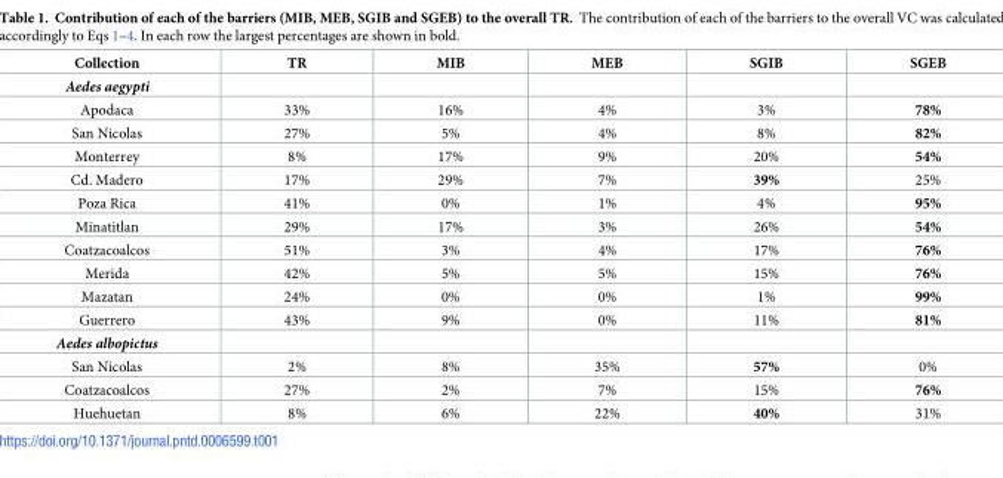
<table><thead><tr><td>Collection</td><td>TR</td><td>MIB</td><td>MEB</td><td>SGIB</td><td>SGEB</td></tr></thead><tbody><tr><td colspan="6">Aedes aegypti</td></tr><tr><td>Apodaca</td><td>33%</td><td>16%</td><td>4%</td><td>3%</td><td>78%</td></tr><tr><td>San Nicolas</td><td>27%</td><td>5%</td><td>4%</td><td>8%</td><td>82%</td></tr><tr><td>Monterrey</td><td>8%</td><td>17%</td><td>9%</td><td>20%</td><td>54%</td></tr><tr><td>Cd. Madero</td><td>17%</td><td>29%</td><td>7%</td><td>39%</td><td>25%</td></tr><tr><td>Poza Rica</td><td>41%</td><td>0%</td><td>1%</td><td>4%</td><td>95%</td></tr><tr><td>Minatitlan</td><td>29%</td><td>17%</td><td>3%</td><td>26%</td><td>54%</td></tr><tr><td>Coatzacoalcos</td><td>51%</td><td>3%</td><td>4%</td><td>17%</td><td>76%</td></tr><tr><td>Merida</td><td>42%</td><td>5%</td><td>5%</td><td>15%</td><td>76%</td></tr><tr><td>Mazatan</td><td>24%</td><td>0%</td><td>0%</td><td>1%</td><td>99%</td></tr><tr><td>Guerrero</td><td>43%</td><td>9%</td><td>0%</td><td>11%</td><td>81%</td></tr><tr><td colspan="6">Aedes albopictus</td></tr><tr><td>San Nicolas</td><td>2%</td><td>8%</td><td>35%</td><td>57%</td><td>0%</td></tr><tr><td>Coatzacoalcos</td><td>27%</td><td>2%</td><td>7%</td><td>15%</td><td>76%</td></tr><tr><td>Huehuetan</td><td>8%</td><td>6%</td><td>22%</td><td>40%</td><td>31%</td></tr></tbody></table>